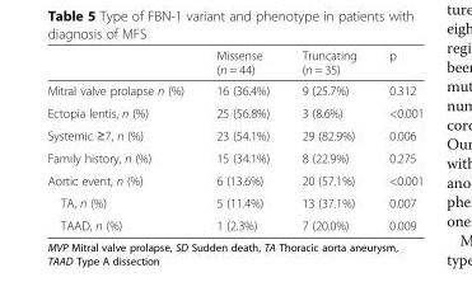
<table><thead><tr><td></td><td>Missense (n = 44)</td><td>Truncating (n = 35)</td><td>p</td></tr></thead><tbody><tr><td>Mitral valve prolapse n (%)</td><td>16 (36.4%)</td><td>9 (25.7%)</td><td>0.312</td></tr><tr><td>Ectopia lentis, n (%)</td><td>25 (56.8%)</td><td>3 (8.6%)</td><td>&lt;0.001</td></tr><tr><td>Systemic ≥7, n (%)</td><td>23 (54.1%)</td><td>29 (82.9%)</td><td>0.006</td></tr><tr><td>Family history, n (%)</td><td>15 (34.1%)</td><td>8 (22.9%)</td><td>0.275</td></tr><tr><td>Aortic event, n (%)</td><td>6 (13.6%)</td><td>20 (57.1%)</td><td>&lt;0.001</td></tr><tr><td>TA, n (%)</td><td>5 (11.4%)</td><td>13 (37.1%)</td><td>0.007</td></tr><tr><td>TAAD, n (%)</td><td>1 (2.3%)</td><td>7 (20.0%)</td><td>0.009</td></tr></tbody></table>